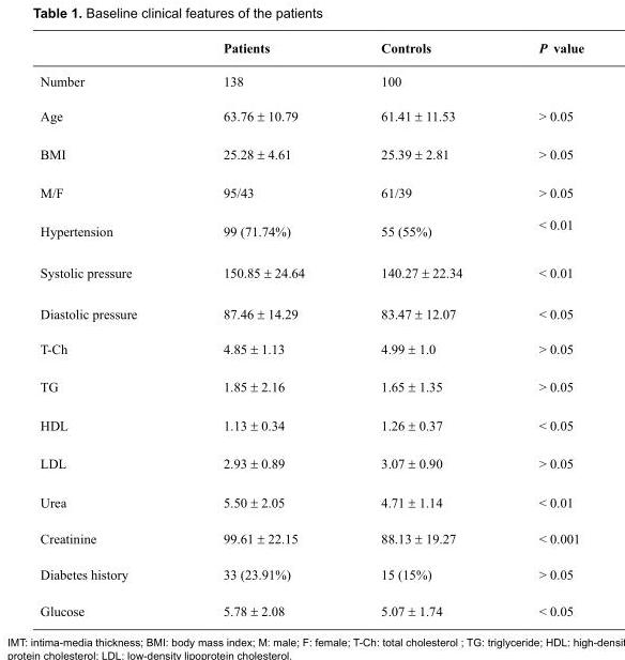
<table><thead><tr><td></td><td>Patients</td><td>Controls</td><td>P value</td></tr></thead><tbody><tr><td>Number</td><td>138</td><td>100</td><td></td></tr><tr><td>Age</td><td>63.76 ± 10.79</td><td>61.41 ± 11.53</td><td>&gt; 0.05</td></tr><tr><td>BMI</td><td>25.28 ± 4.61</td><td>25.39 ± 2.81</td><td>&gt; 0.05</td></tr><tr><td>M/F</td><td>95/43</td><td>61/39</td><td>&gt; 0.05</td></tr><tr><td>Hypertension</td><td>99 (71.74%)</td><td>55 (55%)</td><td>&lt; 0.01</td></tr><tr><td>Systolic pressure</td><td>150.85 ± 24.64</td><td>140.27 ± 22.34</td><td>&lt; 0.01</td></tr><tr><td>Diastolic pressure</td><td>87.46 ± 14.29</td><td>83.47 ± 12.07</td><td>&lt; 0.05</td></tr><tr><td>T-Ch</td><td>4.85 ± 1.13</td><td>4.99 ± 1.0</td><td>&gt; 0.05</td></tr><tr><td>TG</td><td>1.85 ± 2.16</td><td>1.65 ± 1.35</td><td>&gt; 0.05</td></tr><tr><td>HDL</td><td>1.13 ± 0.34</td><td>1.26 ± 0.37</td><td>&lt; 0.05</td></tr><tr><td>LDL</td><td>2.93 ± 0.89</td><td>3.07 ± 0.90</td><td>&gt; 0.05</td></tr><tr><td>Urea</td><td>5.50 ± 2.05</td><td>4.71 ± 1.14</td><td>&lt; 0.01</td></tr><tr><td>Creatinine</td><td>99.61 ± 22.15</td><td>88.13 ± 19.27</td><td>&lt; 0.001</td></tr><tr><td>Diabetes history</td><td>33 (23.91%)</td><td>15 (15%)</td><td>&gt; 0.05</td></tr><tr><td>Glucose</td><td>5.78 ± 2.08</td><td>5.07 ± 1.74</td><td>&lt; 0.05</td></tr></tbody></table>